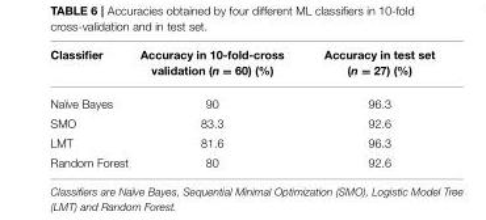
<table><thead><tr><td>Classifier</td><td>Accuracy in 10-fold-cross validation (n = 60) (%)</td><td>Accuracy in test set (n = 27) (%)</td></tr></thead><tbody><tr><td>Naïve Bayes</td><td>90</td><td>96.3</td></tr><tr><td>SMO</td><td>83.3</td><td>92.6</td></tr><tr><td>LMT</td><td>81.6</td><td>96.3</td></tr><tr><td>Random Forest</td><td>80</td><td>92.6</td></tr></tbody></table>